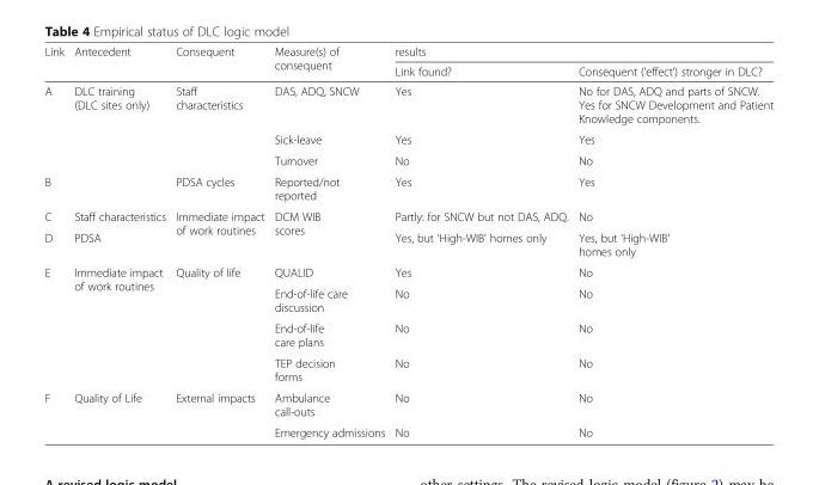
<table><thead><tr><td rowspan="2">Link</td><td rowspan="2">Antecedent</td><td rowspan="2">Consequent</td><td rowspan="2">Measure(s) of consequent</td><td colspan="2">results</td></tr><tr><td>Link found?</td><td>Consequent (‘effect’) stronger in DLC?</td></tr></thead><tbody><tr><td rowspan="3">A</td><td rowspan="4">DLC training (DLC sites only)</td><td rowspan="3">Staff characteristics</td><td>DAS, ADQ, SNCW</td><td>Yes</td><td>No for DAS, ADQ and parts of SNCW. Yes for SNCW Development and Patient Knowledge components.</td></tr><tr><td>Sick-leave</td><td>Yes</td><td>Yes</td></tr><tr><td>Turnover</td><td>No</td><td>No</td></tr><tr><td>B</td><td>PDSA cycles</td><td>Reported/not reported</td><td>Yes</td><td>Yes</td></tr><tr><td>C</td><td>Staff characteristics</td><td rowspan="2">Immediate impact of work routines</td><td rowspan="2">DCM WIB scores</td><td>Partly: for SNCW but not DAS, ADQ.</td><td>No</td></tr><tr><td>D</td><td>PDSA</td><td>Yes, but ‘High-WIB’ homes only</td><td>Yes, but ‘High-WIB’ homes only</td></tr><tr><td rowspan="4">E</td><td rowspan="4">Immediate impact of work routines</td><td rowspan="4">Quality of life</td><td>QUALID</td><td>Yes</td><td>No</td></tr><tr><td>End-of-life care discussion</td><td>No</td><td>No</td></tr><tr><td>End-of-life care plans</td><td>No</td><td>No</td></tr><tr><td>TEP decision forms</td><td>No</td><td>No</td></tr><tr><td rowspan="2">F</td><td rowspan="2">Quality of Life</td><td rowspan="2">External impacts</td><td>Ambulance call-outs</td><td>No</td><td>No</td></tr><tr><td>Emergency admissions</td><td>No</td><td>No</td></tr></tbody></table>